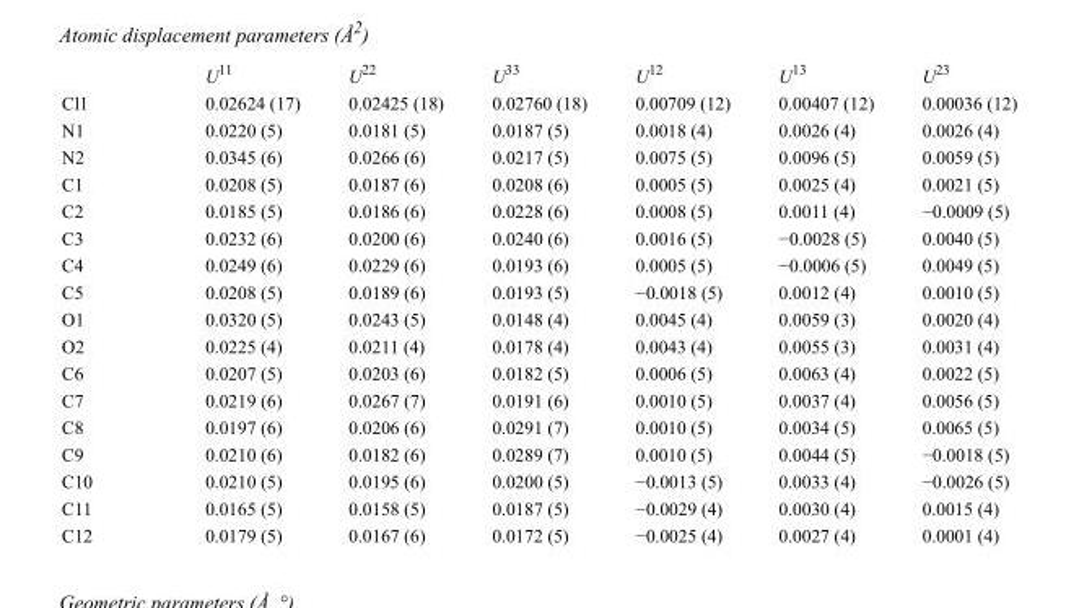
<table><thead><tr><td></td><td>U<sup>11</sup></td><td>U<sup>22</sup></td><td>U<sup>33</sup></td><td>U<sup>12</sup></td><td>U<sup>13</sup></td><td>U<sup>23</sup></td></tr></thead><tbody><tr><td>Cl1</td><td>0.02624 (17)</td><td>0.02425 (18)</td><td>0.02760 (18)</td><td>0.00709 (12)</td><td>0.00407 (12)</td><td>0.00036 (12)</td></tr><tr><td>N1</td><td>0.0220 (5)</td><td>0.0181 (5)</td><td>0.0187 (5)</td><td>0.0018 (4)</td><td>0.0026 (4)</td><td>0.0026 (4)</td></tr><tr><td>N2</td><td>0.0345 (6)</td><td>0.0266 (6)</td><td>0.0217 (5)</td><td>0.0075 (5)</td><td>0.0096 (5)</td><td>0.0059 (5)</td></tr><tr><td>C1</td><td>0.0208 (5)</td><td>0.0187 (6)</td><td>0.0208 (6)</td><td>0.0005 (5)</td><td>0.0025 (4)</td><td>0.0021 (5)</td></tr><tr><td>C2</td><td>0.0185 (5)</td><td>0.0186 (6)</td><td>0.0228 (6)</td><td>0.0008 (5)</td><td>0.0011 (4)</td><td>−0.0009 (5)</td></tr><tr><td>C3</td><td>0.0232 (6)</td><td>0.0200 (6)</td><td>0.0240 (6)</td><td>0.0016 (5)</td><td>−0.0028 (5)</td><td>0.0040 (5)</td></tr><tr><td>C4</td><td>0.0249 (6)</td><td>0.0229 (6)</td><td>0.0193 (6)</td><td>0.0005 (5)</td><td>−0.0006 (5)</td><td>0.0049 (5)</td></tr><tr><td>C5</td><td>0.0208 (5)</td><td>0.0189 (6)</td><td>0.0193 (5)</td><td>−0.0018 (5)</td><td>0.0012 (4)</td><td>0.0010 (5)</td></tr><tr><td>O1</td><td>0.0320 (5)</td><td>0.0243 (5)</td><td>0.0148 (4)</td><td>0.0045 (4)</td><td>0.0059 (3)</td><td>0.0020 (4)</td></tr><tr><td>O2</td><td>0.0225 (4)</td><td>0.0211 (4)</td><td>0.0178 (4)</td><td>0.0043 (4)</td><td>0.0055 (3)</td><td>0.0031 (4)</td></tr><tr><td>C6</td><td>0.0207 (5)</td><td>0.0203 (6)</td><td>0.0182 (5)</td><td>0.0006 (5)</td><td>0.0063 (4)</td><td>0.0022 (5)</td></tr><tr><td>C7</td><td>0.0219 (6)</td><td>0.0267 (7)</td><td>0.0191 (6)</td><td>0.0010 (5)</td><td>0.0037 (4)</td><td>0.0056 (5)</td></tr><tr><td>C8</td><td>0.0197 (6)</td><td>0.0206 (6)</td><td>0.0291 (7)</td><td>0.0010 (5)</td><td>0.0034 (5)</td><td>0.0065 (5)</td></tr><tr><td>C9</td><td>0.0210 (6)</td><td>0.0182 (6)</td><td>0.0289 (7)</td><td>0.0010 (5)</td><td>0.0044 (5)</td><td>−0.0018 (5)</td></tr><tr><td>C10</td><td>0.0210 (5)</td><td>0.0195 (6)</td><td>0.0200 (5)</td><td>−0.0013 (5)</td><td>0.0033 (4)</td><td>−0.0026 (5)</td></tr><tr><td>C11</td><td>0.0165 (5)</td><td>0.0158 (5)</td><td>0.0187 (5)</td><td>−0.0029 (4)</td><td>0.0030 (4)</td><td>0.0015 (4)</td></tr><tr><td>C12</td><td>0.0179 (5)</td><td>0.0167 (6)</td><td>0.0172 (5)</td><td>−0.0025 (4)</td><td>0.0027 (4)</td><td>0.0001 (4)</td></tr></tbody></table>